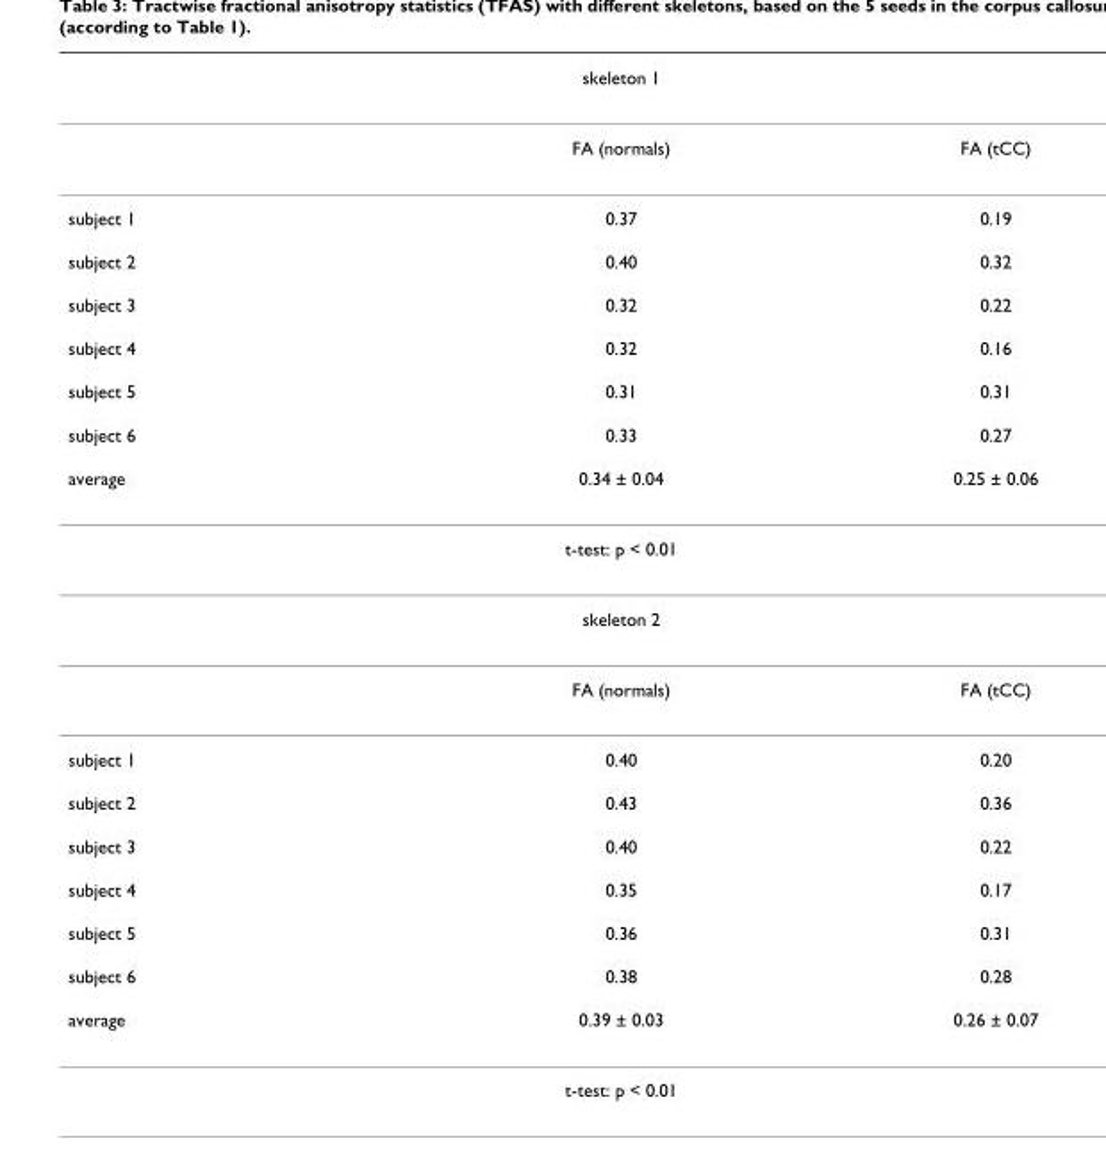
<table><thead><tr><td colspan="3">skeleton 1</td></tr><tr><td></td><td>FA (normals)</td><td>FA (tCC)</td></tr></thead><tbody><tr><td>subject 1</td><td>0.37</td><td>0.19</td></tr><tr><td>subject 2</td><td>0.40</td><td>0.32</td></tr><tr><td>subject 3</td><td>0.32</td><td>0.22</td></tr><tr><td>subject 4</td><td>0.32</td><td>0.16</td></tr><tr><td>subject 5</td><td>0.31</td><td>0.31</td></tr><tr><td>subject 6</td><td>0.33</td><td>0.27</td></tr><tr><td>average</td><td>0.34 ± 0.04</td><td>0.25 ± 0.06</td></tr><tr><td colspan="3">t-test: p &lt; 0.01</td></tr><tr><td colspan="3">skeleton 2</td></tr><tr><td></td><td>FA (normals)</td><td>FA (tCC)</td></tr><tr><td>subject 1</td><td>0.40</td><td>0.20</td></tr><tr><td>subject 2</td><td>0.43</td><td>0.36</td></tr><tr><td>subject 3</td><td>0.40</td><td>0.22</td></tr><tr><td>subject 4</td><td>0.35</td><td>0.17</td></tr><tr><td>subject 5</td><td>0.36</td><td>0.31</td></tr><tr><td>subject 6</td><td>0.38</td><td>0.28</td></tr><tr><td>average</td><td>0.39 ± 0.03</td><td>0.26 ± 0.07</td></tr><tr><td colspan="3">t-test: p &lt; 0.01</td></tr></tbody></table>